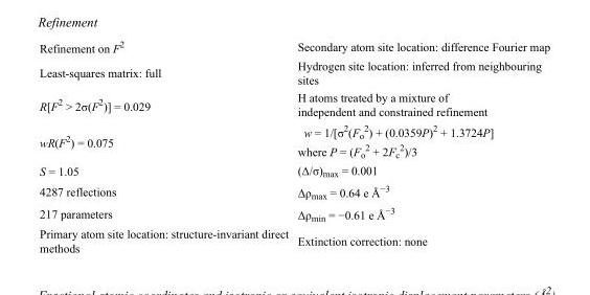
<table><tbody><tr><td>Refinement on F<sup>2</sup></td><td>Secondary atom site location: difference Fourier map</td></tr><tr><td>Least-squares matrix: full</td><td>Hydrogen site location: inferred from neighbouring sites</td></tr><tr><td>R[F<sup>2</sup> &gt; 2σ(F<sup>2</sup>)] = 0.029</td><td>H atoms treated by a mixture of independent and constrained refinement</td></tr><tr><td>wR(F<sup>2</sup>) = 0.075</td><td>w = 1/[σ<sup>2</sup>(F<sub>o</sub> <sup>2</sup>) + (0.0359P)<sup>2</sup> + 1.3724P] where P = (F<sub>o</sub> <sup>2</sup> + 2F<sub>c</sub> <sup>2</sup>)/3</td></tr><tr><td>S = 1.05</td><td>(Δ/σ)<sub>max</sub> = 0.001</td></tr><tr><td>4287 reflections</td><td>Δρ<sub>max</sub> = 0.64 e Å<sup>−3</sup></td></tr><tr><td>217 parameters</td><td>Δρ<sub>min</sub> = −0.61 e Å<sup>−3</sup></td></tr><tr><td>Primary atom site location: structure-invariant direct methods</td><td>Extinction correction: none</td></tr></tbody></table>